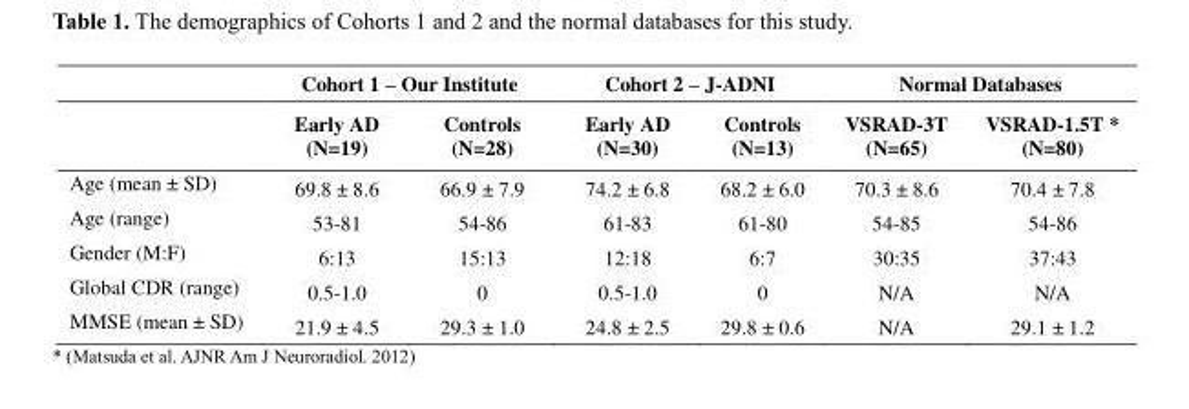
<table><thead><tr><td rowspan="2"></td><td colspan="2">Cohort 1 – Our Institute</td><td colspan="2">Cohort 2 – J-ADNI</td><td colspan="2">Normal Databases</td></tr><tr><td>Early AD (N=19)</td><td>Controls (N=28)</td><td>Early AD (N=30)</td><td>Controls (N=13)</td><td>VSRAD-3T (N=65)</td><td>VSRAD-1.5T * (N=80)</td></tr></thead><tbody><tr><td>Age (mean ± SD)</td><td>69.8 ± 8.6</td><td>66.9 ± 7.9</td><td>74.2 ± 6.8</td><td>68.2 ± 6.0</td><td>70.3 ± 8.6</td><td>70.4 ± 7.8</td></tr><tr><td>Age (range)</td><td>53-81</td><td>54-86</td><td>61-83</td><td>61-80</td><td>54-85</td><td>54-86</td></tr><tr><td>Gender (M:F)</td><td>6:13</td><td>15:13</td><td>12:18</td><td>6:7</td><td>30:35</td><td>37:43</td></tr><tr><td>Global CDR (range)</td><td>0.5-1.0</td><td>0</td><td>0.5-1.0</td><td>0</td><td>N/A</td><td>N/A</td></tr><tr><td>MMSE (mean ± SD)</td><td>21.9 ± 4.5</td><td>29.3 ± 1.0</td><td>24.8 ± 2.5</td><td>29.8 ± 0.6</td><td>N/A</td><td>29.1 ± 1.2</td></tr></tbody></table>